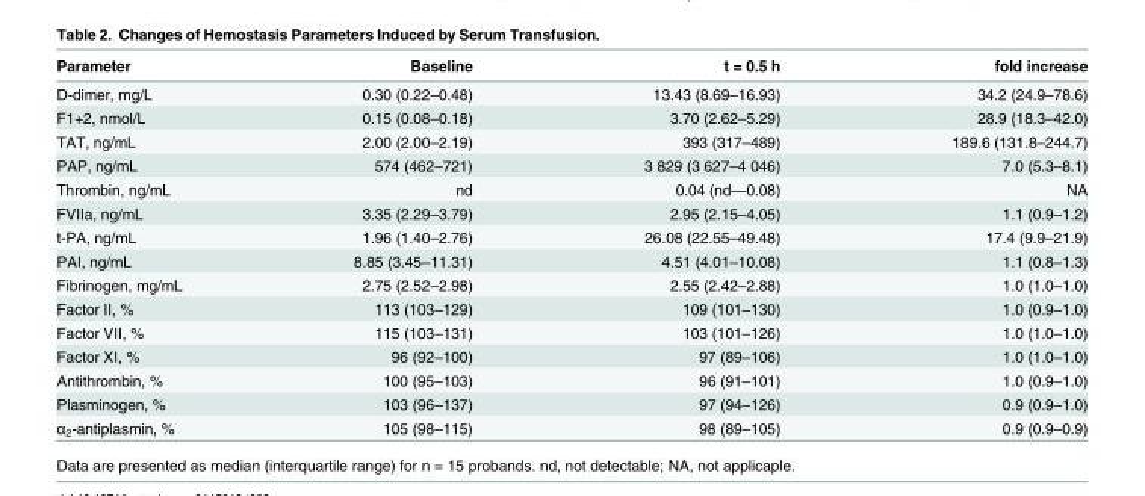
<table><thead><tr><td>Parameter</td><td>Baseline</td><td>t = 0.5 h</td><td>fold increase</td></tr></thead><tbody><tr><td>D-dimer, mg/L</td><td>0.30 (0.22–0.48)</td><td>13.43 (8.69–16.93)</td><td>34.2 (24.9–78.6)</td></tr><tr><td>F1+2, nmol/L</td><td>0.15 (0.08–0.18)</td><td>3.70 (2.62–5.29)</td><td>28.9 (18.3–42.0)</td></tr><tr><td>TAT, ng/mL</td><td>2.00 (2.00–2.19)</td><td>393 (317–489)</td><td>189.6 (131.8–244.7)</td></tr><tr><td>PAP, ng/mL</td><td>574 (462–721)</td><td>3 829 (3 627–4 046)</td><td>7.0 (5.3–8.1)</td></tr><tr><td>Thrombin, ng/mL</td><td>nd</td><td>0.04 (nd—0.08)</td><td>NA</td></tr><tr><td>FVIIa, ng/mL</td><td>3.35 (2.29–3.79)</td><td>2.95 (2.15–4.05)</td><td>1.1 (0.9–1.2)</td></tr><tr><td>t-PA, ng/mL</td><td>1.96 (1.40–2.76)</td><td>26.08 (22.55–49.48)</td><td>17.4 (9.9–21.9)</td></tr><tr><td>PAI, ng/mL</td><td>8.85 (3.45–11.31)</td><td>4.51 (4.01–10.08)</td><td>1.1 (0.8–1.3)</td></tr><tr><td>Fibrinogen, mg/mL</td><td>2.75 (2.52–2.98)</td><td>2.55 (2.42–2.88)</td><td>1.0 (1.0–1.0)</td></tr><tr><td>Factor II, %</td><td>113 (103–129)</td><td>109 (101–130)</td><td>1.0 (0.9–1.0)</td></tr><tr><td>Factor VII, %</td><td>115 (103–131)</td><td>103 (101–126)</td><td>1.0 (1.0–1.0)</td></tr><tr><td>Factor XI, %</td><td>96 (92–100)</td><td>97 (89–106)</td><td>1.0 (1.0–1.0)</td></tr><tr><td>Antithrombin, %</td><td>100 (95–103)</td><td>96 (91–101)</td><td>1.0 (0.9–1.0)</td></tr><tr><td>Plasminogen, %</td><td>103 (96–137)</td><td>97 (94–126)</td><td>0.9 (0.9–1.0)</td></tr><tr><td>α<sub>2</sub>-antiplasmin, %</td><td>105 (98–115)</td><td>98 (89–105)</td><td>0.9 (0.9–0.9)</td></tr></tbody></table>